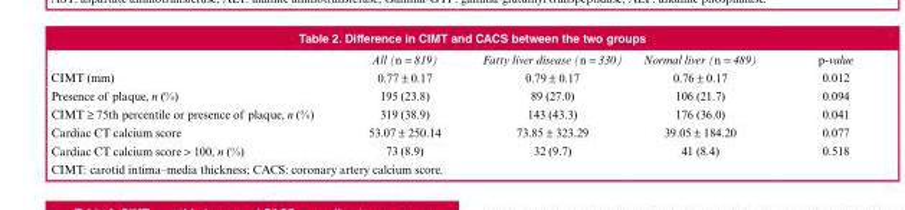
<table><thead><tr><td></td><td>All (n = 819)</td><td>Fatty liver disease (n = 330)</td><td>Normal liver (n = 489)</td><td>p-value</td></tr></thead><tbody><tr><td>CIMT (mm)</td><td>0.77 ± 0.17</td><td>0.79 ± 0.17</td><td>0.76 ± 0.17</td><td>0.012</td></tr><tr><td>Presence of plaque, n (%)</td><td>195 (23.8)</td><td>89 (27.0)</td><td>106 (21.7)</td><td>0.094</td></tr><tr><td>CIMT ≥ 75th percentile or presence of plaque, n (%)</td><td>319 (38.9)</td><td>143 (43.3)</td><td>176 (36.0)</td><td>0.041</td></tr><tr><td>Cardiac CT calcium score</td><td>53.07 ± 250.14</td><td>73.85 ± 323.29</td><td>39.05 ± 184.20</td><td>0.077</td></tr><tr><td>Cardiac CT calcium score &gt; 100, n (%)</td><td>73 (8.9)</td><td>32 (9.7)</td><td>41 (8.4)</td><td>0.518</td></tr></tbody></table>